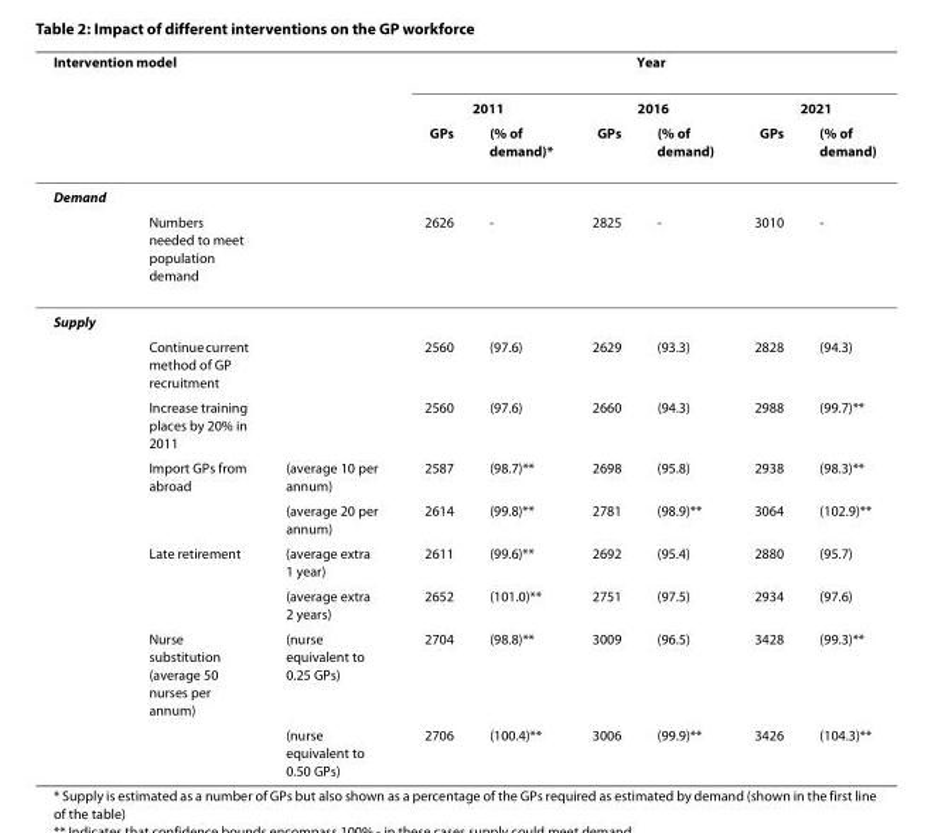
<table><thead><tr><td colspan="3">Intervention model</td><td colspan="6">Year</td></tr><tr><td rowspan="2"></td><td rowspan="2"></td><td rowspan="2"></td><td colspan="2">2011</td><td colspan="2">2016</td><td colspan="2">2021</td></tr><tr><td>GPs</td><td>(% of demand)*</td><td>GPs</td><td>(% of demand)</td><td>GPs</td><td>(% of demand)</td></tr></thead><tbody><tr><td colspan="9">Demand</td></tr><tr><td></td><td>Numbers needed to meet population demand</td><td></td><td>2626</td><td>-</td><td>2825</td><td>-</td><td>3010</td><td>-</td></tr><tr><td colspan="9">Supply</td></tr><tr><td></td><td>Continue current method of GP recruitment</td><td></td><td>2560</td><td>(97.6)</td><td>2629</td><td>(93.3)</td><td>2828</td><td>(94.3)</td></tr><tr><td></td><td>Increase training places by 20% in 2011</td><td></td><td>2560</td><td>(97.6)</td><td>2660</td><td>(94.3)</td><td>2988</td><td>(99.7)**</td></tr><tr><td></td><td>Import GPs from abroad</td><td>(average 10 per annum)</td><td>2587</td><td>(98.7)**</td><td>2698</td><td>(95.8)</td><td>2938</td><td>(98.3)**</td></tr><tr><td></td><td></td><td>(average 20 per annum)</td><td>2614</td><td>(99.8)**</td><td>2781</td><td>(98.9)**</td><td>3064</td><td>(102.9)**</td></tr><tr><td></td><td>Late retirement</td><td>(average extra 1 year)</td><td>2611</td><td>(99.6)**</td><td>2692</td><td>(95.4)</td><td>2880</td><td>(95.7)</td></tr><tr><td></td><td></td><td>(average extra 2 years)</td><td>2652</td><td>(101.0)**</td><td>2751</td><td>(97.5)</td><td>2934</td><td>(97.6)</td></tr><tr><td></td><td>Nurse substitution (average 50 nurses per annum)</td><td>(nurse equivalent to 0.25 GPs)</td><td>2704</td><td>(98.8)**</td><td>3009</td><td>(96.5)</td><td>3428</td><td>(99.3)**</td></tr><tr><td></td><td></td><td>(nurse equivalent to 0.50 GPs)</td><td>2706</td><td>(100.4)**</td><td>3006</td><td>(99.9)**</td><td>3426</td><td>(104.3)**</td></tr></tbody></table>